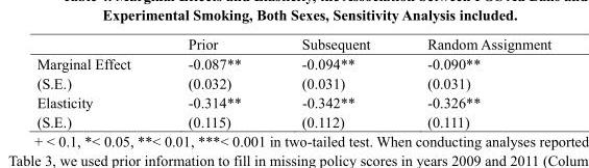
<table><thead><tr><td></td><td>Prior</td><td>Subsequent</td><td>Random Assignment</td></tr></thead><tbody><tr><td>Marginal Effect</td><td>-0.087**</td><td>-0.094**</td><td>-0.090**</td></tr><tr><td>(S.E.)</td><td>(0.032)</td><td>(0.031)</td><td>(0.031)</td></tr><tr><td>Elasticity</td><td>-0.314**</td><td>-0.342**</td><td>-0.326**</td></tr><tr><td>(S.E.)</td><td>(0.115)</td><td>(0.112)</td><td>(0.111)</td></tr></tbody></table>